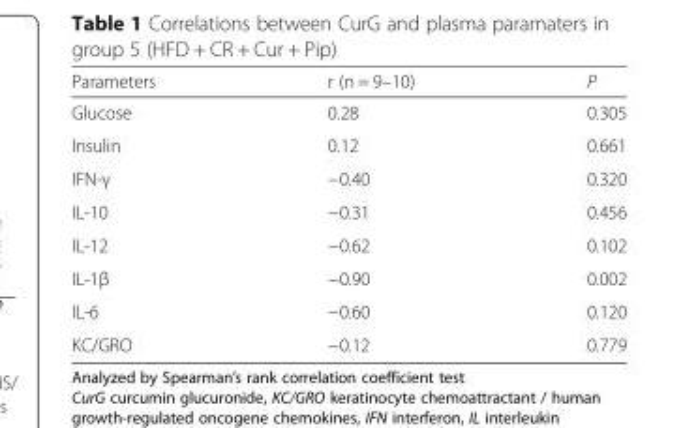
<table><thead><tr><td>Parameters</td><td>r (n = 9–10)</td><td>P</td></tr></thead><tbody><tr><td>Glucose</td><td>0.28</td><td>0.305</td></tr><tr><td>Insulin</td><td>0.12</td><td>0.661</td></tr><tr><td>IFN-γ</td><td>−0.40</td><td>0.320</td></tr><tr><td>IL-10</td><td>−0.31</td><td>0.456</td></tr><tr><td>IL-12</td><td>−0.62</td><td>0.102</td></tr><tr><td>IL-1β</td><td>−0.90</td><td>0.002</td></tr><tr><td>IL-6</td><td>−0.60</td><td>0.120</td></tr><tr><td>KC/GRO</td><td>−0.12</td><td>0.779</td></tr></tbody></table>